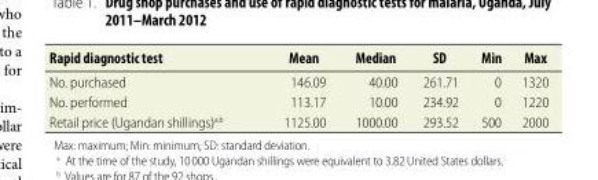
<table><thead><tr><td>Rapid diagnostic test</td><td>Mean</td><td>Median</td><td>SD</td><td>Min</td><td>Max</td></tr></thead><tbody><tr><td>No. purchased</td><td>146.09</td><td>40.00</td><td>261.71</td><td>0</td><td>1320</td></tr><tr><td>No. performed</td><td>113.17</td><td>10.00</td><td>234.92</td><td>0</td><td>1220</td></tr><tr><td>Retail price (Ugandan shillings)<sup>a,b</sup></td><td>1125.00</td><td>1000.00</td><td>293.52</td><td>500</td><td>2000</td></tr></tbody></table>